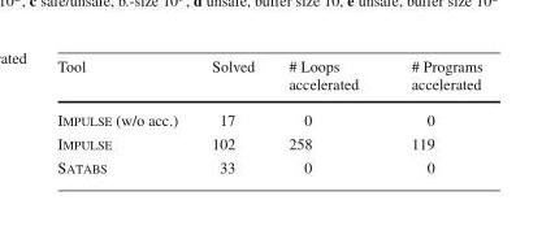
<table><thead><tr><td>Tool</td><td>Solved</td><td># Loops accelerated</td><td># Programs accelerated</td></tr></thead><tbody><tr><td>Impulse (w/o acc.)</td><td>17</td><td>0</td><td>0</td></tr><tr><td>Impulse</td><td>102</td><td>258</td><td>119</td></tr><tr><td>Satabs</td><td>33</td><td>0</td><td>0</td></tr></tbody></table>